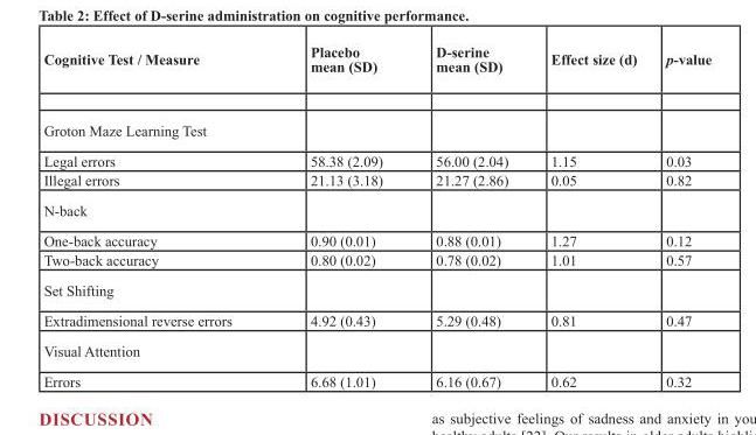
<table><thead><tr><td>Cognitive Test / Measure</td><td>Placebo mean (SD)</td><td>D-serine mean (SD)</td><td>Effect size (d)</td><td>p-value</td></tr></thead><tbody><tr><td colspan="5">Groton Maze Learning Test</td></tr><tr><td>Legal errors</td><td>58.38 (2.09)</td><td>56.00 (2.04)</td><td>1.15</td><td>0.03</td></tr><tr><td>Illegal errors</td><td>21.13 (3.18)</td><td>21.27 (2.86)</td><td>0.05</td><td>0.82</td></tr><tr><td colspan="5">N-back</td></tr><tr><td>One-back accuracy</td><td>0.90 (0.01)</td><td>0.88 (0.01)</td><td>1.27</td><td>0.12</td></tr><tr><td>Two-back accuracy</td><td>0.80 (0.02)</td><td>0.78 (0.02)</td><td>1.01</td><td>0.57</td></tr><tr><td colspan="5">Set Shifting</td></tr><tr><td>Extradimensional reverse errors</td><td>4.92 (0.43)</td><td>5.29 (0.48)</td><td>0.81</td><td>0.47</td></tr><tr><td colspan="5">Visual Attention</td></tr><tr><td>Errors</td><td>6.68 (1.01)</td><td>6.16 (0.67)</td><td>0.62</td><td>0.32</td></tr></tbody></table>